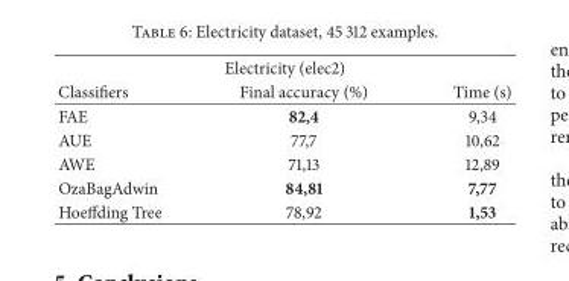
<table><thead><tr><td colspan="3">Electricity (elec2)</td></tr><tr><td>Classifiers</td><td>Final accuracy (%)</td><td>Time (s)</td></tr></thead><tbody><tr><td>FAE</td><td>82,4</td><td>9,34</td></tr><tr><td>AUE</td><td>77,7</td><td>10,62</td></tr><tr><td>AWE</td><td>71,13</td><td>12,89</td></tr><tr><td>OzaBagAdwin</td><td>84,81</td><td>7,77</td></tr><tr><td>Hoeffding Tree</td><td>78,92</td><td>1,53</td></tr></tbody></table>